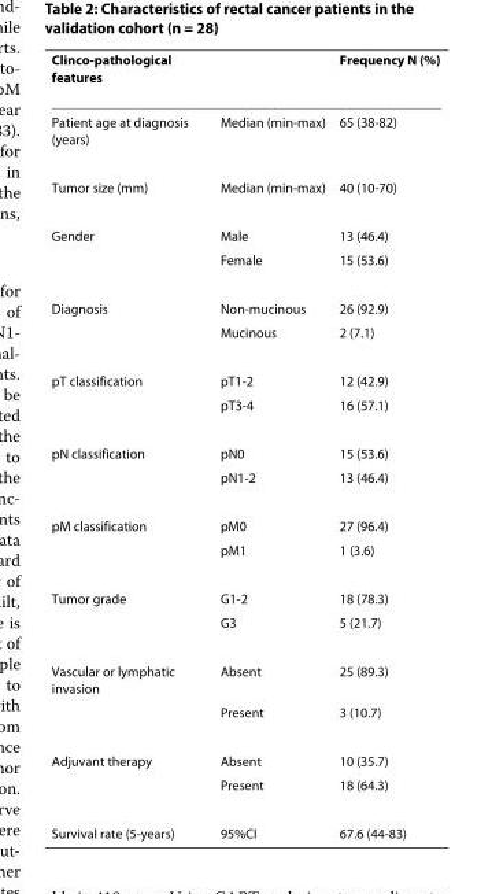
<table><thead><tr><td>Clinco-pathological features</td><td></td><td>Frequency N (%)</td></tr></thead><tbody><tr><td>Patient age at diagnosis (years)</td><td>Median (min-max)</td><td>65 (38-82)</td></tr><tr><td>Tumor size (mm)</td><td>Median (min-max)</td><td>40 (10-70)</td></tr><tr><td rowspan="2">Gender</td><td>Male</td><td>13 (46.4)</td></tr><tr><td>Female</td><td>15 (53.6)</td></tr><tr><td rowspan="2">Diagnosis</td><td>Non-mucinous</td><td>26 (92.9)</td></tr><tr><td>Mucinous</td><td>2 (7.1)</td></tr><tr><td rowspan="2">pT classification</td><td>pT1-2</td><td>12 (42.9)</td></tr><tr><td>pT3-4</td><td>16 (57.1)</td></tr><tr><td rowspan="2">pN classification</td><td>pN0</td><td>15 (53.6)</td></tr><tr><td>pN1-2</td><td>13 (46.4)</td></tr><tr><td rowspan="2">pM classification</td><td>pM0</td><td>27 (96.4)</td></tr><tr><td>pM1</td><td>1 (3.6)</td></tr><tr><td rowspan="2">Tumor grade</td><td>G1-2</td><td>18 (78.3)</td></tr><tr><td>G3</td><td>5 (21.7)</td></tr><tr><td rowspan="2">Vascular or lymphatic invasion</td><td>Absent</td><td>25 (89.3)</td></tr><tr><td>Present</td><td>3 (10.7)</td></tr><tr><td rowspan="2">Adjuvant therapy</td><td>Absent</td><td>10 (35.7)</td></tr><tr><td>Present</td><td>18 (64.3)</td></tr><tr><td>Survival rate (5-years)</td><td>95%CI</td><td>67.6 (44-83)</td></tr></tbody></table>